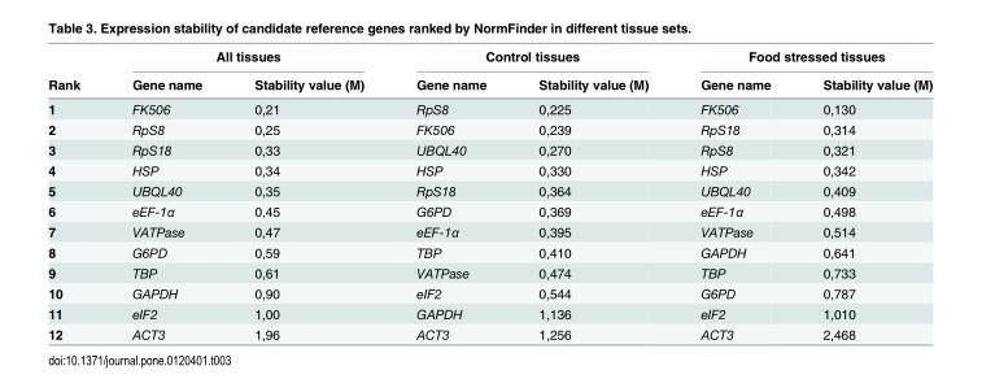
<table><thead><tr><td rowspan="2">Rank</td><td colspan="2">All tissues</td><td colspan="2">Control tissues</td><td colspan="2">Food stressed tissues</td></tr><tr><td>Gene name</td><td>Stability value (M)</td><td>Gene name</td><td>Stability value (M)</td><td>Gene name</td><td>Stability value (M)</td></tr></thead><tbody><tr><td>1</td><td>FK506</td><td>0,21</td><td>RpS8</td><td>0,225</td><td>FK506</td><td>0,130</td></tr><tr><td>2</td><td>RpS8</td><td>0,25</td><td>FK506</td><td>0,239</td><td>RpS18</td><td>0,314</td></tr><tr><td>3</td><td>RpS18</td><td>0,33</td><td>UBQL40</td><td>0,270</td><td>RpS8</td><td>0,321</td></tr><tr><td>4</td><td>HSP</td><td>0,34</td><td>HSP</td><td>0,330</td><td>HSP</td><td>0,342</td></tr><tr><td>5</td><td>UBQL40</td><td>0,35</td><td>RpS18</td><td>0,364</td><td>UBQL40</td><td>0,409</td></tr><tr><td>6</td><td>eEF-1α</td><td>0,45</td><td>G6PD</td><td>0,369</td><td>eEF-1α</td><td>0,498</td></tr><tr><td>7</td><td>VATPase</td><td>0,47</td><td>eEF-1α</td><td>0,395</td><td>VATPase</td><td>0,514</td></tr><tr><td>8</td><td>G6PD</td><td>0,59</td><td>TBP</td><td>0,410</td><td>GAPDH</td><td>0,641</td></tr><tr><td>9</td><td>TBP</td><td>0,61</td><td>VATPase</td><td>0,474</td><td>TBP</td><td>0,733</td></tr><tr><td>10</td><td>GAPDH</td><td>0,90</td><td>eIF2</td><td>0,544</td><td>G6PD</td><td>0,787</td></tr><tr><td>11</td><td>eIF2</td><td>1,00</td><td>GAPDH</td><td>1,136</td><td>eIF2</td><td>1,010</td></tr><tr><td>12</td><td>ACT3</td><td>1,96</td><td>ACT3</td><td>1,256</td><td>ACT3</td><td>2,468</td></tr></tbody></table>